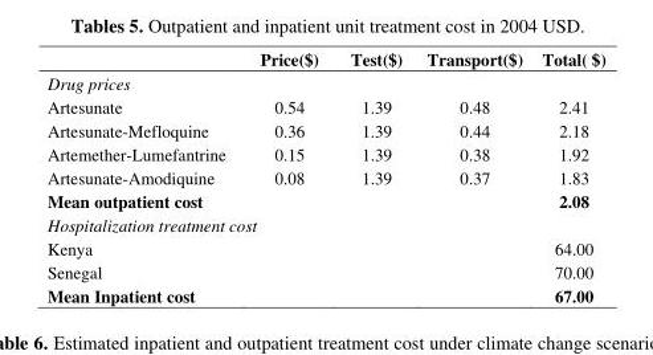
<table><thead><tr><td></td><td>Price($)</td><td>Test($)</td><td>Transport($)</td><td>Total( $)</td></tr></thead><tbody><tr><td colspan="5">Drug prices</td></tr><tr><td>Artesunate</td><td>0.54</td><td>1.39</td><td>0.48</td><td>2.41</td></tr><tr><td>Artesunate-Mefloquine</td><td>0.36</td><td>1.39</td><td>0.44</td><td>2.18</td></tr><tr><td>Artemether-Lumefantrine</td><td>0.15</td><td>1.39</td><td>0.38</td><td>1.92</td></tr><tr><td>Artesunate-Amodiquine</td><td>0.08</td><td>1.39</td><td>0.37</td><td>1.83</td></tr><tr><td>Mean outpatient cost</td><td></td><td></td><td></td><td>2.08</td></tr><tr><td colspan="5">Hospitalization treatment cost</td></tr><tr><td>Kenya</td><td></td><td></td><td></td><td>64.00</td></tr><tr><td>Senegal</td><td></td><td></td><td></td><td>70.00</td></tr><tr><td>Mean Inpatient cost</td><td></td><td></td><td></td><td>67.00</td></tr></tbody></table>